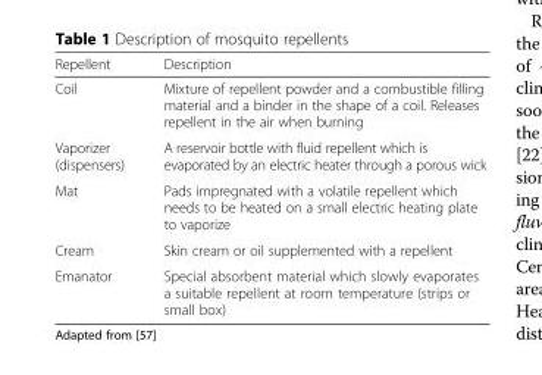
<table><thead><tr><td>Repellent</td><td>Description</td></tr></thead><tbody><tr><td>Coil</td><td>Mixture of repellent powder and a combustible filling material and a binder in the shape of a coil. Releases repellent in the air when burning</td></tr><tr><td>Vaporizer (dispensers)</td><td>A reservoir bottle with fluid repellent which is evaporated by an electric heater through a porous wick</td></tr><tr><td>Mat</td><td>Pads impregnated with a volatile repellent which needs to be heated on a small electric heating plate to vaporize</td></tr><tr><td>Cream</td><td>Skin cream or oil supplemented with a repellent</td></tr><tr><td>Emanator</td><td>Special absorbent material which slowly evaporates a suitable repellent at room temperature (strips or small box)</td></tr></tbody></table>